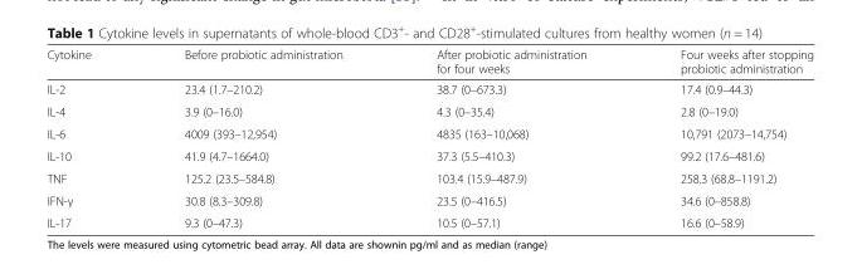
<table><thead><tr><td>Cytokine</td><td>Before probiotic administration</td><td>After probiotic administration for four weeks</td><td>Four weeks after stopping probiotic administration</td></tr></thead><tbody><tr><td>IL-2</td><td>23.4 (1.7–210.2)</td><td>38.7 (0–673.3)</td><td>17.4 (0.9–44.3)</td></tr><tr><td>IL-4</td><td>3.9 (0–16.0)</td><td>4.3 (0–35.4)</td><td>2.8 (0–19.0)</td></tr><tr><td>IL-6</td><td>4009 (393–12,954)</td><td>4835 (163–10,068)</td><td>10,791 (2073–14,754)</td></tr><tr><td>IL-10</td><td>41.9 (4.7–1664.0)</td><td>37.3 (5.5–410.3)</td><td>99.2 (17.6–481.6)</td></tr><tr><td>TNF</td><td>125.2 (23.5–584.8)</td><td>103.4 (15.9–487.9)</td><td>258.3 (68.8–1191.2)</td></tr><tr><td>IFN-γ</td><td>30.8 (8.3–309.8)</td><td>23.5 (0–416.5)</td><td>34.6 (0–858.8)</td></tr><tr><td>IL-17</td><td>9.3 (0–47.3)</td><td>10.5 (0–57.1)</td><td>16.6 (0–58.9)</td></tr></tbody></table>